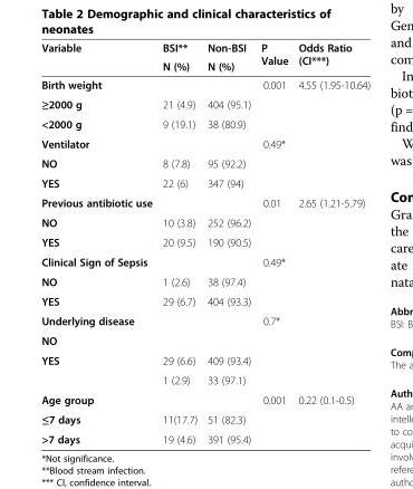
<table><thead><tr><td rowspan="2">Variable</td><td rowspan="2">BSI** N (%)</td><td rowspan="2">Non-BSI N (%)</td><td rowspan="2">P Value</td><td rowspan="2">Odds Ratio (CI***)</td></tr><tr></tr></thead><tbody><tr><td>Birth weight</td><td></td><td></td><td>0.001</td><td>4.55 (1.95-10.64)</td></tr><tr><td>≥2000 g</td><td>21 (4.9)</td><td>404 (95.1)</td><td></td><td></td></tr><tr><td>&lt;2000 g</td><td>9 (19.1)</td><td>38 (80.9)</td><td></td><td></td></tr><tr><td>Ventilator</td><td></td><td></td><td>0.49*</td><td></td></tr><tr><td>NO</td><td>8 (7.8)</td><td>95 (92.2)</td><td></td><td></td></tr><tr><td>YES</td><td>22 (6)</td><td>347 (94)</td><td></td><td></td></tr><tr><td>Previous antibiotic use</td><td></td><td></td><td>0.01</td><td>2.65 (1.21-5.79)</td></tr><tr><td>NO</td><td>10 (3.8)</td><td>252 (96.2)</td><td></td><td></td></tr><tr><td>YES</td><td>20 (9.5)</td><td>190 (90.5)</td><td></td><td></td></tr><tr><td>Clinical Sign of Sepsis</td><td></td><td></td><td>0.49*</td><td></td></tr><tr><td>NO</td><td>1 (2.6)</td><td>38 (97.4)</td><td></td><td></td></tr><tr><td>YES</td><td>29 (6.7)</td><td>404 (93.3)</td><td></td><td></td></tr><tr><td>Underlying disease</td><td></td><td></td><td>0.7*</td><td></td></tr><tr><td colspan="5">NO</td></tr><tr><td rowspan="2">YES</td><td>29 (6.6)</td><td>409 (93.4)</td><td></td><td></td></tr><tr><td>1 (2.9)</td><td>33 (97.1)</td><td></td><td></td></tr><tr><td>Age group</td><td></td><td></td><td>0.001</td><td>0.22 (0.1-0.5)</td></tr><tr><td>≤7 days</td><td>11(17.7)</td><td>51 (82.3)</td><td></td><td></td></tr><tr><td>&gt;7 days</td><td>19 (4.6)</td><td>391 (95.4)</td><td></td><td></td></tr></tbody></table>